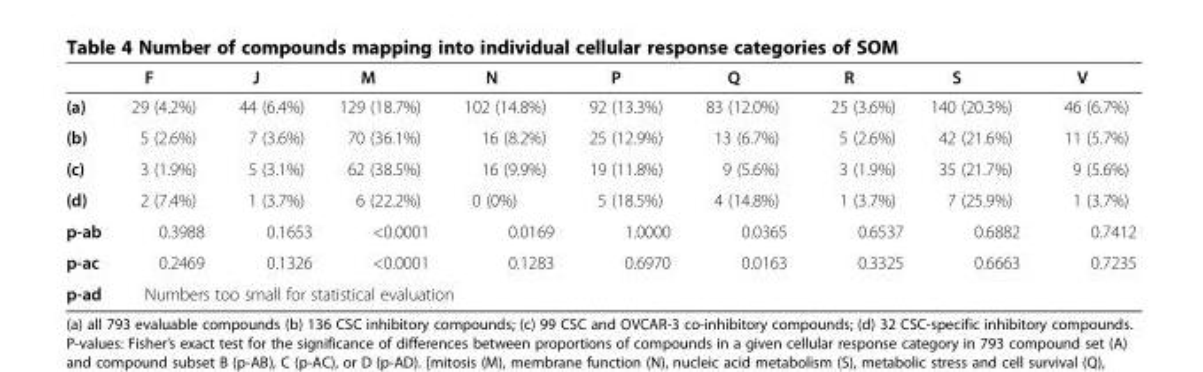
<table><thead><tr><td></td><td>F</td><td>J</td><td>M</td><td>N</td><td>P</td><td>Q</td><td>R</td><td>S</td><td>V</td></tr></thead><tbody><tr><td>(a)</td><td>29 (4.2%)</td><td>44 (6.4%)</td><td>129 (18.7%)</td><td>102 (14.8%)</td><td>92 (13.3%)</td><td>83 (12.0%)</td><td>25 (3.6%)</td><td>140 (20.3%)</td><td>46 (6.7%)</td></tr><tr><td>(b)</td><td>5 (2.6%)</td><td>7 (3.6%)</td><td>70 (36.1%)</td><td>16 (8.2%)</td><td>25 (12.9%)</td><td>13 (6.7%)</td><td>5 (2.6%)</td><td>42 (21.6%)</td><td>11 (5.7%)</td></tr><tr><td>(c)</td><td>3 (1.9%)</td><td>5 (3.1%)</td><td>62 (38.5%)</td><td>16 (9.9%)</td><td>19 (11.8%)</td><td>9 (5.6%)</td><td>3 (1.9%)</td><td>35 (21.7%)</td><td>9 (5.6%)</td></tr><tr><td>(d)</td><td>2 (7.4%)</td><td>1 (3.7%)</td><td>6 (22.2%)</td><td>0 (0%)</td><td>5 (18.5%)</td><td>4 (14.8%)</td><td>1 (3.7%)</td><td>7 (25.9%)</td><td>1 (3.7%)</td></tr><tr><td>p-ab</td><td>0.3988</td><td>0.1653</td><td>&lt;0.0001</td><td>0.0169</td><td>1.0000</td><td>0.0365</td><td>0.6537</td><td>0.6882</td><td>0.7412</td></tr><tr><td>p-ac</td><td>0.2469</td><td>0.1326</td><td>&lt;0.0001</td><td>0.1283</td><td>0.6970</td><td>0.0163</td><td>0.3325</td><td>0.6663</td><td>0.7235</td></tr><tr><td>p-ad</td><td colspan="9">Numbers too small for statistical evaluation</td></tr></tbody></table>